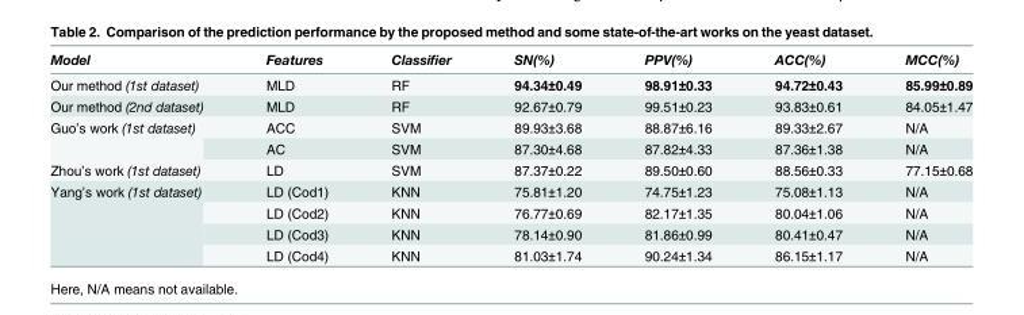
<table><thead><tr><td>Model</td><td>Features</td><td>Classifier</td><td>SN(%)</td><td>PPV(%)</td><td>ACC(%)</td><td>MCC(%)</td></tr></thead><tbody><tr><td>Our method (1st dataset)</td><td>MLD</td><td>RF</td><td>94.34±0.49</td><td>98.91±0.33</td><td>94.72±0.43</td><td>85.99±0.89</td></tr><tr><td>Our method (2nd dataset)</td><td>MLD</td><td>RF</td><td>92.67±0.79</td><td>99.51±0.23</td><td>93.83±0.61</td><td>84.05±1.47</td></tr><tr><td rowspan="2">Guo’s work (1st dataset)</td><td>ACC</td><td>SVM</td><td>89.93±3.68</td><td>88.87±6.16</td><td>89.33±2.67</td><td>N/A</td></tr><tr><td>AC</td><td>SVM</td><td>87.30±4.68</td><td>87.82±4.33</td><td>87.36±1.38</td><td>N/A</td></tr><tr><td>Zhou’s work (1st dataset)</td><td>LD</td><td>SVM</td><td>87.37±0.22</td><td>89.50±0.60</td><td>88.56±0.33</td><td>77.15±0.68</td></tr><tr><td rowspan="4">Yang’s work (1st dataset)</td><td>LD (Cod1)</td><td>KNN</td><td>75.81±1.20</td><td>74.75±1.23</td><td>75.08±1.13</td><td>N/A</td></tr><tr><td>LD (Cod2)</td><td>KNN</td><td>76.77±0.69</td><td>82.17±1.35</td><td>80.04±1.06</td><td>N/A</td></tr><tr><td>LD (Cod3)</td><td>KNN</td><td>78.14±0.90</td><td>81.86±0.99</td><td>80.41±0.47</td><td>N/A</td></tr><tr><td>LD (Cod4)</td><td>KNN</td><td>81.03±1.74</td><td>90.24±1.34</td><td>86.15±1.17</td><td>N/A</td></tr></tbody></table>